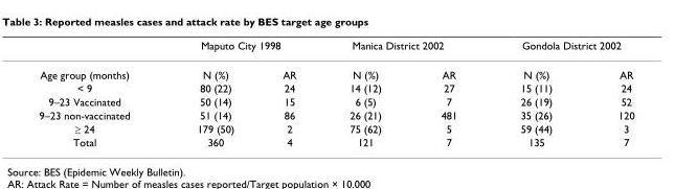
<table><thead><tr><td rowspan="2">Age group (months)</td><td colspan="2">Maputo City 1998</td><td colspan="2">Manica District 2002</td><td colspan="2">Gondola District 2002</td></tr><tr><td>N (%)</td><td>AR</td><td>N (%)</td><td>AR</td><td>N (%)</td><td>AR</td></tr></thead><tbody><tr><td>&lt; 9</td><td>80 (22)</td><td>24</td><td>14 (12)</td><td>27</td><td>15 (11)</td><td>24</td></tr><tr><td>9–23 Vaccinated</td><td>50 (14)</td><td>15</td><td>6 (5)</td><td>7</td><td>26 (19)</td><td>52</td></tr><tr><td>9–23 non-vaccinated</td><td>51 (14)</td><td>86</td><td>26 (21)</td><td>481</td><td>35 (26)</td><td>120</td></tr><tr><td>≥ 24</td><td>179 (50)</td><td>2</td><td>75 (62)</td><td>5</td><td>59 (44)</td><td>3</td></tr><tr><td>Total</td><td>360</td><td>4</td><td>121</td><td>7</td><td>135</td><td>7</td></tr></tbody></table>